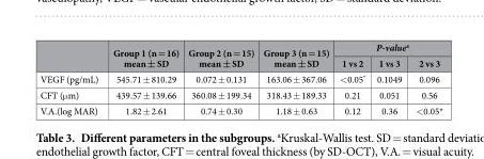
<table><thead><tr><td rowspan="2"></td><td rowspan="2">Group 1 (n = 16) mean ± SD</td><td rowspan="2">Group 2 (n = 15) mean ± SD</td><td rowspan="2">Group 3 (n = 15) mean ± SD</td><td colspan="3">P-value<sup>a</sup></td></tr><tr><td>1 vs 2</td><td>1 vs 3</td><td>2 vs 3</td></tr></thead><tbody><tr><td>VEGF (pg/mL)</td><td>545.71 ± 810.29</td><td>0.072 ± 0.131</td><td>163.06 ± 367.06</td><td>&lt; 0.05*</td><td>0.1049</td><td>0.096</td></tr><tr><td>CFT (μ m)</td><td>439.57 ± 139.66</td><td>360.08 ± 199.34</td><td>318.43 ± 189.33</td><td>0.21</td><td>0.051</td><td>0.56</td></tr><tr><td>V.A.(log MAR)</td><td>1.82 ± 2.61</td><td>0.74 ± 0.30</td><td>1.18 ± 0.63</td><td>0.12</td><td>0.36</td><td>&lt; 0.05*</td></tr></tbody></table>